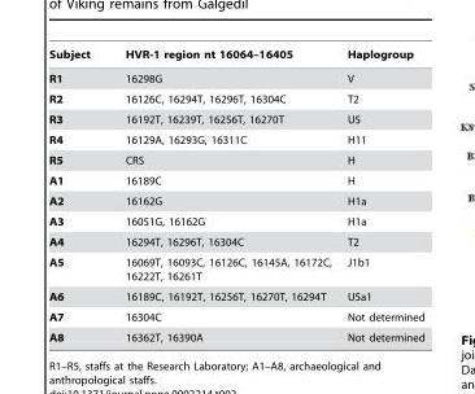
<table><thead><tr><td>Subject</td><td>HVR-1 region nt 16064–16405</td><td>Haplogroup</td></tr></thead><tbody><tr><td>R1</td><td>16298G</td><td>V</td></tr><tr><td>R2</td><td>16126C, 16294T, 16296T, 16304C</td><td>T2</td></tr><tr><td>R3</td><td>16192T, 16239T, 16256T, 16270T</td><td>U5</td></tr><tr><td>R4</td><td>16129A, 16293G, 16311C</td><td>H11</td></tr><tr><td>R5</td><td>CRS</td><td>H</td></tr><tr><td>A1</td><td>16189C</td><td>H</td></tr><tr><td>A2</td><td>16162G</td><td>H1a</td></tr><tr><td>A3</td><td>16051G, 16162G</td><td>H1a</td></tr><tr><td>A4</td><td>16294T, 16296T, 16304C</td><td>T2</td></tr><tr><td>A5</td><td>16069T, 16093C, 16126C, 16145A, 16172C, 16222T, 16261T</td><td>J1b1</td></tr><tr><td>A6</td><td>16189C, 16192T, 16256T, 16270T, 16294T</td><td>U5a1</td></tr><tr><td>A7</td><td>16304C</td><td>Not determined</td></tr><tr><td>A8</td><td>16362T, 16390A</td><td>Not determined</td></tr></tbody></table>